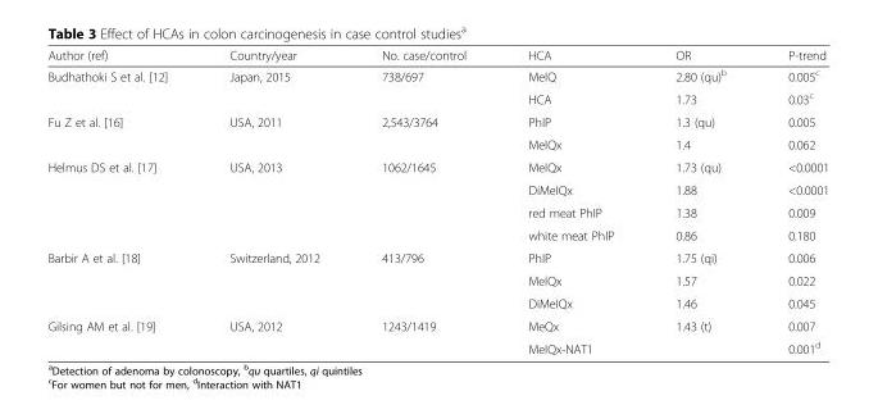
<table><thead><tr><td>Author (ref)</td><td>Country/year</td><td>No. case/control</td><td>HCA</td><td>OR</td><td>P-trend</td></tr></thead><tbody><tr><td rowspan="2">Budhathoki S et al. [12]</td><td>Japan, 2015</td><td>738/697</td><td>MeIQ</td><td>2.80 (qu)<sup>b</sup></td><td>0.005<sup>c</sup></td></tr><tr><td></td><td></td><td>HCA</td><td>1.73</td><td>0.03<sup>c</sup></td></tr><tr><td rowspan="2">Fu Z et al. [16]</td><td>USA, 2011</td><td>2,543/3764</td><td>PhIP</td><td>1.3 (qu)</td><td>0.005</td></tr><tr><td></td><td></td><td>MeIQx</td><td>1.4</td><td>0.062</td></tr><tr><td rowspan="4">Helmus DS et al. [17]</td><td>USA, 2013</td><td>1062/1645</td><td>MeIQx</td><td>1.73 (qu)</td><td>&lt;0.0001</td></tr><tr><td></td><td></td><td>DiMeIQx</td><td>1.88</td><td>&lt;0.0001</td></tr><tr><td></td><td></td><td>red meat PhIP</td><td>1.38</td><td>0.009</td></tr><tr><td></td><td></td><td>white meat PhIP</td><td>0.86</td><td>0.180</td></tr><tr><td rowspan="3">Barbir A et al. [18]</td><td>Switzerland, 2012</td><td>413/796</td><td>PhIP</td><td>1.75 (qi)</td><td>0.006</td></tr><tr><td></td><td></td><td>MeIQx</td><td>1.57</td><td>0.022</td></tr><tr><td></td><td></td><td>DiMeIQx</td><td>1.46</td><td>0.045</td></tr><tr><td rowspan="2">Gilsing AM et al. [19]</td><td>USA, 2012</td><td>1243/1419</td><td>MeQx</td><td>1.43 (t)</td><td>0.007</td></tr><tr><td></td><td></td><td>MeIQx-NAT1</td><td></td><td>0.001<sup>d</sup></td></tr></tbody></table>